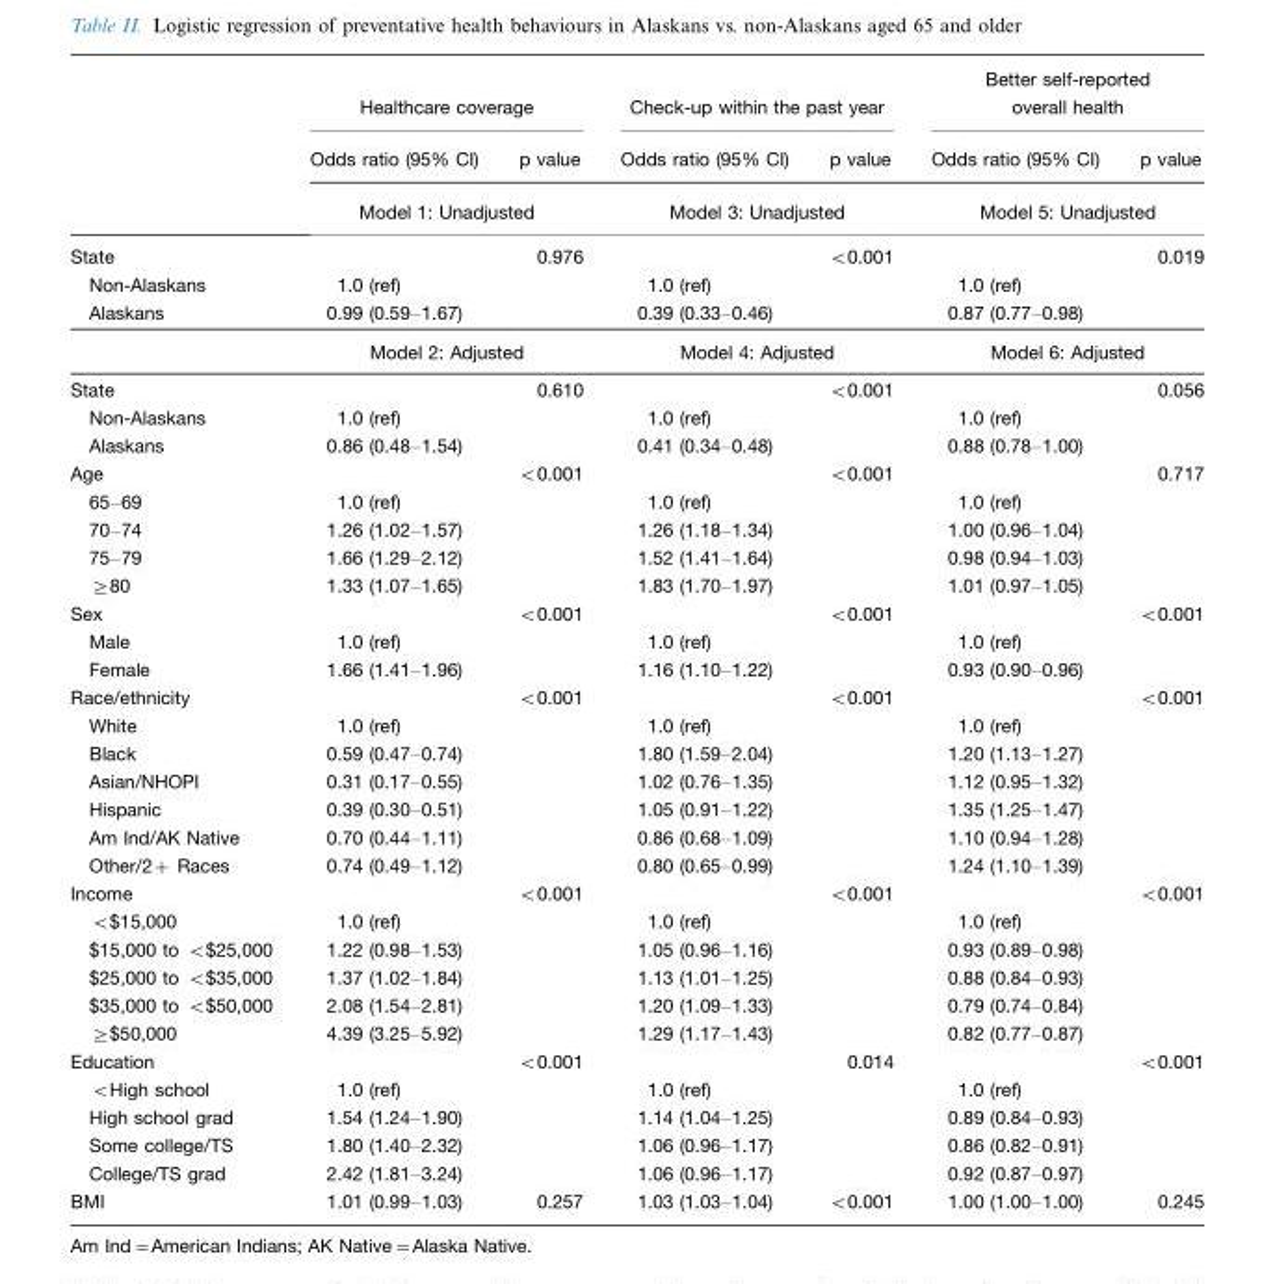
<table><thead><tr><td rowspan="3"></td><td colspan="2">Healthcare coverage</td><td colspan="2">Check-up within the past year</td><td colspan="2">Better self-reported overall health</td></tr><tr><td>Odds ratio (95% CI)</td><td>p value</td><td>Odds ratio (95% CI)</td><td>p value</td><td>Odds ratio (95% CI)</td><td>p value</td></tr><tr><td colspan="2">Model 1: Unadjusted</td><td colspan="2">Model 3: Unadjusted</td><td colspan="2">Model 5: Unadjusted</td></tr></thead><tbody><tr><td>State</td><td></td><td>0.976</td><td></td><td>&lt;0.001</td><td></td><td>0.019</td></tr><tr><td>Non-Alaskans</td><td>1.0 (ref)</td><td></td><td>1.0 (ref)</td><td></td><td>1.0 (ref)</td><td></td></tr><tr><td rowspan="2">Alaskans</td><td>0.99 (0.59–1.67)</td><td></td><td>0.39 (0.33–0.46)</td><td></td><td>0.87 (0.77–0.98)</td><td></td></tr><tr><td colspan="2">Model 2: Adjusted</td><td colspan="2">Model 4: Adjusted</td><td colspan="2">Model 6: Adjusted</td></tr><tr><td>State</td><td></td><td>0.610</td><td></td><td>&lt;0.001</td><td></td><td>0.056</td></tr><tr><td>Non-Alaskans</td><td>1.0 (ref)</td><td></td><td>1.0 (ref)</td><td></td><td>1.0 (ref)</td><td></td></tr><tr><td>Alaskans</td><td>0.86 (0.48–1.54)</td><td></td><td>0.41 (0.34–0.48)</td><td></td><td>0.88 (0.78–1.00)</td><td></td></tr><tr><td>Age</td><td></td><td>&lt;0.001</td><td></td><td>&lt;0.001</td><td></td><td>0.717</td></tr><tr><td>65–69</td><td>1.0 (ref)</td><td></td><td>1.0 (ref)</td><td></td><td>1.0 (ref)</td><td></td></tr><tr><td>70–74</td><td>1.26 (1.02–1.57)</td><td></td><td>1.26 (1.18–1.34)</td><td></td><td>1.00 (0.96–1.04)</td><td></td></tr><tr><td>75–79</td><td>1.66 (1.29–2.12)</td><td></td><td>1.52 (1.41–1.64)</td><td></td><td>0.98 (0.94–1.03)</td><td></td></tr><tr><td>≥80</td><td>1.33 (1.07–1.65)</td><td></td><td>1.83 (1.70–1.97)</td><td></td><td>1.01 (0.97–1.05)</td><td></td></tr><tr><td>Sex</td><td></td><td>&lt;0.001</td><td></td><td>&lt;0.001</td><td></td><td>&lt;0.001</td></tr><tr><td>Male</td><td>1.0 (ref)</td><td></td><td>1.0 (ref)</td><td></td><td>1.0 (ref)</td><td></td></tr><tr><td>Female</td><td>1.66 (1.41–1.96)</td><td></td><td>1.16 (1.10–1.22)</td><td></td><td>0.93 (0.90–0.96)</td><td></td></tr><tr><td>Race/ethnicity</td><td></td><td>&lt;0.001</td><td></td><td>&lt;0.001</td><td></td><td>&lt;0.001</td></tr><tr><td>White</td><td>1.0 (ref)</td><td></td><td>1.0 (ref)</td><td></td><td>1.0 (ref)</td><td></td></tr><tr><td>Black</td><td>0.59 (0.47–0.74)</td><td></td><td>1.80 (1.59–2.04)</td><td></td><td>1.20 (1.13–1.27)</td><td></td></tr><tr><td>Asian/NHOPI</td><td>0.31 (0.17–0.55)</td><td></td><td>1.02 (0.76–1.35)</td><td></td><td>1.12 (0.95–1.32)</td><td></td></tr><tr><td>Hispanic</td><td>0.39 (0.30–0.51)</td><td></td><td>1.05 (0.91–1.22)</td><td></td><td>1.35 (1.25–1.47)</td><td></td></tr><tr><td>Am Ind/AK Native</td><td>0.70 (0.44–1.11)</td><td></td><td>0.86 (0.68–1.09)</td><td></td><td>1.10 (0.94–1.28)</td><td></td></tr><tr><td>Other/2+ Races</td><td>0.74 (0.49–1.12)</td><td></td><td>0.80 (0.65–0.99)</td><td></td><td>1.24 (1.10–1.39)</td><td></td></tr><tr><td>Income</td><td></td><td>&lt;0.001</td><td></td><td>&lt;0.001</td><td></td><td>&lt;0.001</td></tr><tr><td>&lt;$15,000</td><td>1.0 (ref)</td><td></td><td>1.0 (ref)</td><td></td><td>1.0 (ref)</td><td></td></tr><tr><td>$15,000 to &lt;$25,000</td><td>1.22 (0.98–1.53)</td><td></td><td>1.05 (0.96–1.16)</td><td></td><td>0.93 (0.89–0.98)</td><td></td></tr><tr><td>$25,000 to &lt;$35,000</td><td>1.37 (1.02–1.84)</td><td></td><td>1.13 (1.01–1.25)</td><td></td><td>0.88 (0.84–0.93)</td><td></td></tr><tr><td>$35,000 to &lt;$50,000</td><td>2.08 (1.54–2.81)</td><td></td><td>1.20 (1.09–1.33)</td><td></td><td>0.79 (0.74–0.84)</td><td></td></tr><tr><td>≥$50,000</td><td>4.39 (3.25–5.92)</td><td></td><td>1.29 (1.17–1.43)</td><td></td><td>0.82 (0.77–0.87)</td><td></td></tr><tr><td>Education</td><td></td><td>&lt;0.001</td><td></td><td>0.014</td><td></td><td>&lt;0.001</td></tr><tr><td>&lt;High school</td><td>1.0 (ref)</td><td></td><td>1.0 (ref)</td><td></td><td>1.0 (ref)</td><td></td></tr><tr><td>High school grad</td><td>1.54 (1.24–1.90)</td><td></td><td>1.14 (1.04–1.25)</td><td></td><td>0.89 (0.84–0.93)</td><td></td></tr><tr><td>Some college/TS</td><td>1.80 (1.40–2.32)</td><td></td><td>1.06 (0.96–1.17)</td><td></td><td>0.86 (0.82–0.91)</td><td></td></tr><tr><td>College/TS grad</td><td>2.42 (1.81–3.24)</td><td></td><td>1.06 (0.96–1.17)</td><td></td><td>0.92 (0.87–0.97)</td><td></td></tr><tr><td>BMI</td><td>1.01 (0.99–1.03)</td><td>0.257</td><td>1.03 (1.03–1.04)</td><td>&lt;0.001</td><td>1.00 (1.00–1.00)</td><td>0.245</td></tr></tbody></table>